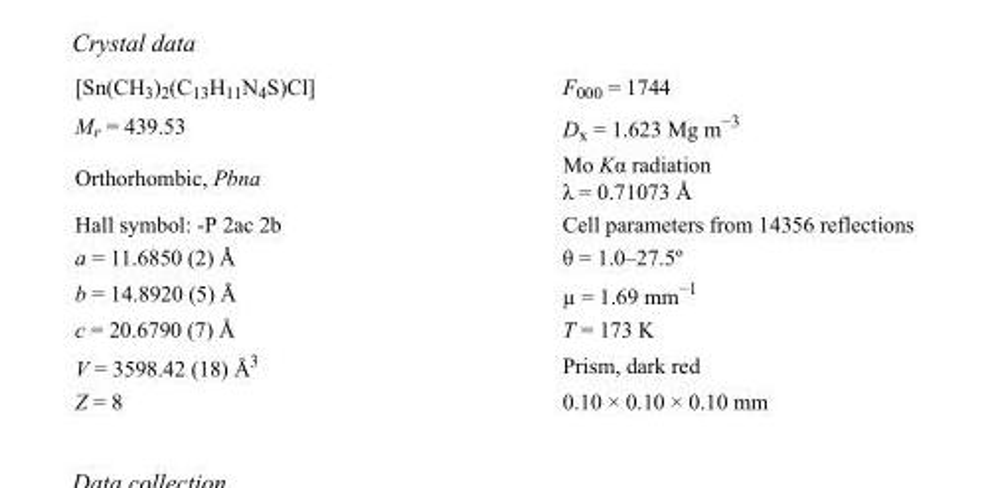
<table><tbody><tr><td>[Sn(CH<sub>3</sub>)<sub>2</sub>(C<sub>13</sub>H<sub>11</sub>N<sub>4</sub>S)Cl]</td><td>F000 = 1744</td></tr><tr><td>M<sub>r</sub> = 439.53</td><td>D<sub>x</sub> = 1.623 Mg m<sup>−3</sup></td></tr><tr><td>Orthorhombic, Pbna</td><td>Mo Kα radiation λ = 0.71073 Å</td></tr><tr><td>Hall symbol: -P 2ac 2b</td><td>Cell parameters from 14356 reflections</td></tr><tr><td>a = 11.6850 (2) Å</td><td>θ = 1.0–27.5º</td></tr><tr><td>b = 14.8920 (5) Å</td><td>µ = 1.69 mm<sup>−1</sup></td></tr><tr><td>c = 20.6790 (7) Å</td><td>T = 173 K</td></tr><tr><td>V = 3598.42 (18) Å<sup>3</sup></td><td>Prism, dark red</td></tr><tr><td>Z = 8</td><td>0.10 × 0.10 × 0.10 mm</td></tr></tbody></table>